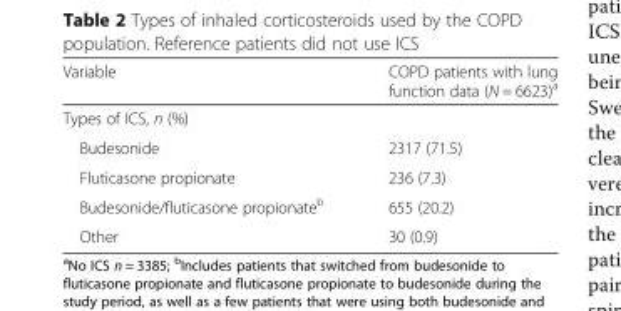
<table><thead><tr><td>Variable</td><td>COPD patients with lung function data (N = 6623)<sup>a</sup></td></tr></thead><tbody><tr><td colspan="2">Types of ICS, n (%)</td></tr><tr><td>Budesonide</td><td>2317 (71.5)</td></tr><tr><td>Fluticasone propionate</td><td>236 (7.3)</td></tr><tr><td>Budesonide/fluticasone propionate<sup>b</sup></td><td>655 (20.2)</td></tr><tr><td>Other</td><td>30 (0.9)</td></tr></tbody></table>